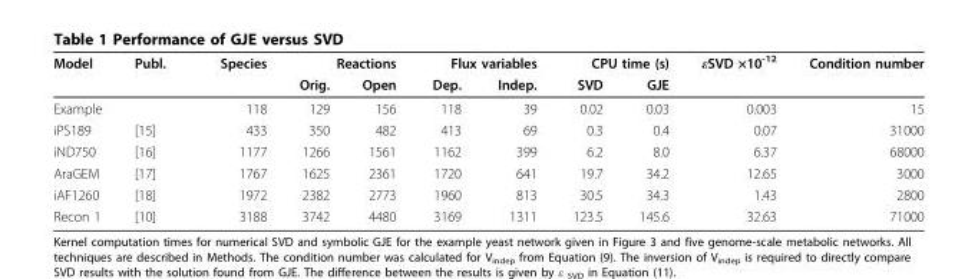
<table><thead><tr><td rowspan="2">Model</td><td rowspan="2">Publ.</td><td rowspan="2">Species</td><td colspan="2">Reactions</td><td colspan="2">Flux variables</td><td colspan="2">CPU time (s)</td><td rowspan="2">εSVD ×10<sup>-12</sup></td><td rowspan="2">Condition number</td></tr><tr><td>Orig.</td><td>Open</td><td>Dep.</td><td>Indep.</td><td>SVD</td><td>GJE</td></tr></thead><tbody><tr><td>Example</td><td></td><td>118</td><td>129</td><td>156</td><td>118</td><td>39</td><td>0.02</td><td>0.03</td><td>0.003</td><td>15</td></tr><tr><td>iPS189</td><td>[15]</td><td>433</td><td>350</td><td>482</td><td>413</td><td>69</td><td>0.3</td><td>0.4</td><td>0.07</td><td>31000</td></tr><tr><td>iND750</td><td>[16]</td><td>1177</td><td>1266</td><td>1561</td><td>1162</td><td>399</td><td>6.2</td><td>8.0</td><td>6.37</td><td>68000</td></tr><tr><td>AraGEM</td><td>[17]</td><td>1767</td><td>1625</td><td>2361</td><td>1720</td><td>641</td><td>19.7</td><td>34.2</td><td>12.65</td><td>3000</td></tr><tr><td>iAF1260</td><td>[18]</td><td>1972</td><td>2382</td><td>2773</td><td>1960</td><td>813</td><td>30.5</td><td>34.3</td><td>1.43</td><td>2800</td></tr><tr><td>Recon 1</td><td>[10]</td><td>3188</td><td>3742</td><td>4480</td><td>3169</td><td>1311</td><td>123.5</td><td>145.6</td><td>32.63</td><td>71000</td></tr></tbody></table>